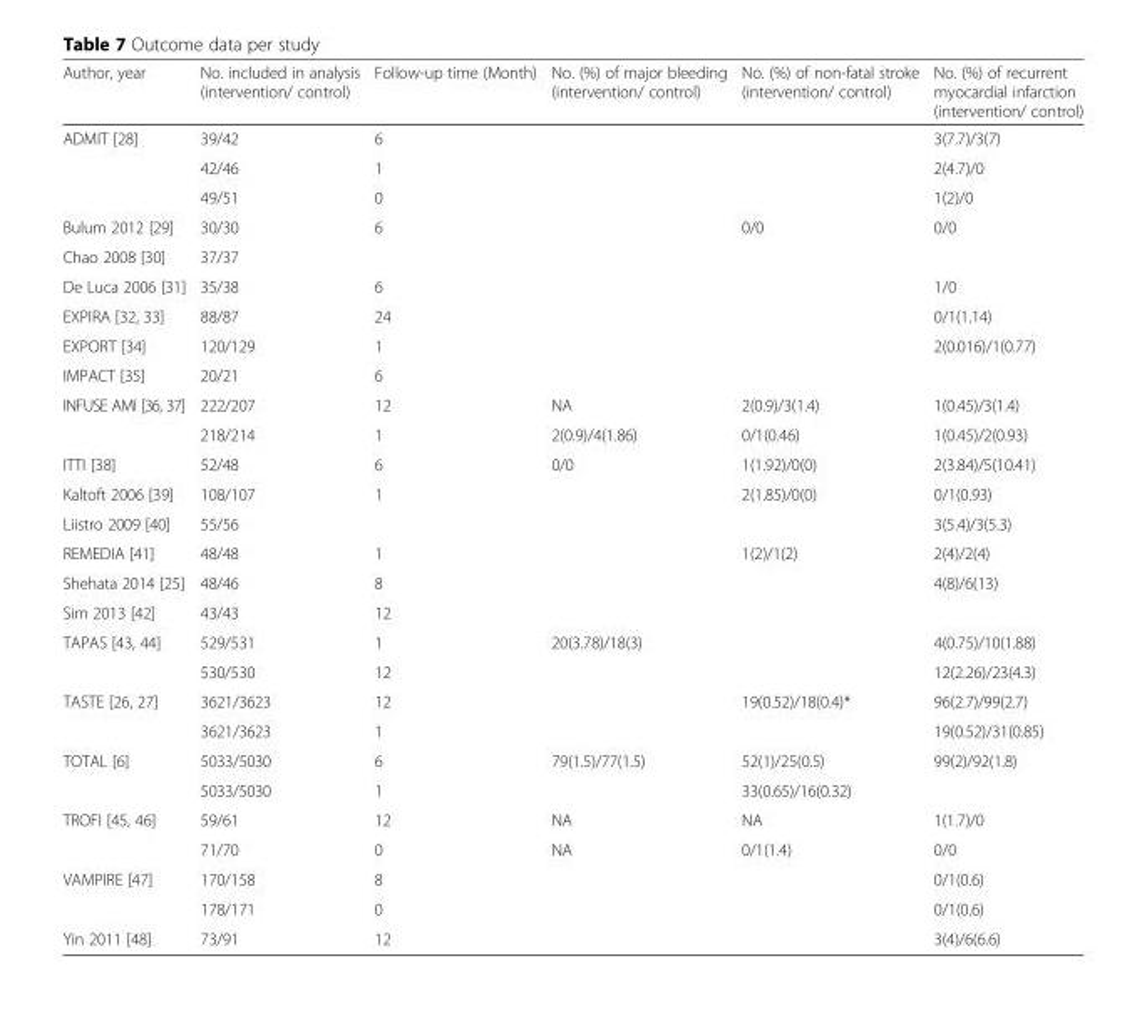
<table><thead><tr><td>Author, year</td><td>No. included in analysis (intervention/ control)</td><td>Follow-up time (Month)</td><td>No. (%) of major bleeding (intervention/ control)</td><td>No. (%) of non-fatal stroke (intervention/ control)</td><td>No. (%) of recurrent myocardial infarction (intervention/ control)</td></tr></thead><tbody><tr><td rowspan="3">ADMIT [28]</td><td>39/42</td><td>6</td><td></td><td></td><td>3(7.7)/3(7)</td></tr><tr><td>42/46</td><td>1</td><td></td><td></td><td>2(4.7)/0</td></tr><tr><td>49/51</td><td>0</td><td></td><td></td><td>1(2)/0</td></tr><tr><td>Bulum 2012 [29]</td><td>30/30</td><td>6</td><td></td><td>0/0</td><td>0/0</td></tr><tr><td>Chao 2008 [30]</td><td>37/37</td><td></td><td></td><td></td><td></td></tr><tr><td>De Luca 2006 [31]</td><td>35/38</td><td>6</td><td></td><td></td><td>1/0</td></tr><tr><td>EXPIRA [32, 33]</td><td>88/87</td><td>24</td><td></td><td></td><td>0/1(1.14)</td></tr><tr><td>EXPORT [34]</td><td>120/129</td><td>1</td><td></td><td></td><td>2(0.016)/1(0.77)</td></tr><tr><td>IMPACT [35]</td><td>20/21</td><td>6</td><td></td><td></td><td></td></tr><tr><td rowspan="2">INFUSE AMI [36, 37]</td><td>222/207</td><td>12</td><td>NA</td><td>2(0.9)/3(1.4)</td><td>1(0.45)/3(1.4)</td></tr><tr><td>218/214</td><td>1</td><td>2(0.9)/4(1.86)</td><td>0/1(0.46)</td><td>1(0.45)/2(0.93)</td></tr><tr><td>ITTI [38]</td><td>52/48</td><td>6</td><td>0/0</td><td>1(1.92)/0(0)</td><td>2(3.84)/5(10.41)</td></tr><tr><td>Kaltoft 2006 [39]</td><td>108/107</td><td>1</td><td></td><td>2(1.85)/0(0)</td><td>0/1(0.93)</td></tr><tr><td>Liistro 2009 [40]</td><td>55/56</td><td></td><td></td><td></td><td>3(5.4)/3(5.3)</td></tr><tr><td>REMEDIA [41]</td><td>48/48</td><td>1</td><td></td><td>1(2)/1(2)</td><td>2(4)/2(4)</td></tr><tr><td>Shehata 2014 [25]</td><td>48/46</td><td>8</td><td></td><td></td><td>4(8)/6(13)</td></tr><tr><td>Sim 2013 [42]</td><td>43/43</td><td>12</td><td></td><td></td><td></td></tr><tr><td rowspan="2">TAPAS [43, 44]</td><td>529/531</td><td>1</td><td>20(3.78)/18(3)</td><td></td><td>4(0.75)/10(1.88)</td></tr><tr><td>530/530</td><td>12</td><td></td><td></td><td>12(2.26)/23(4.3)</td></tr><tr><td rowspan="2">TASTE [26, 27]</td><td>3621/3623</td><td>12</td><td></td><td>19(0.52)/18(0.4)*</td><td>96(2.7)/99(2.7)</td></tr><tr><td>3621/3623</td><td>1</td><td></td><td></td><td>19(0.52)/31(0.85)</td></tr><tr><td rowspan="2">TOTAL [6]</td><td>5033/5030</td><td>6</td><td>79(1.5)/77(1.5)</td><td>52(1)/25(0.5)</td><td>99(2)/92(1.8)</td></tr><tr><td>5033/5030</td><td>1</td><td></td><td>33(0.65)/16(0.32)</td><td></td></tr><tr><td rowspan="2">TROFI [45, 46]</td><td>59/61</td><td>12</td><td>NA</td><td>NA</td><td>1(1.7)/0</td></tr><tr><td>71/70</td><td>0</td><td>NA</td><td>0/1(1.4)</td><td>0/0</td></tr><tr><td rowspan="2">VAMPIRE [47]</td><td>170/158</td><td>8</td><td></td><td></td><td>0/1(0.6)</td></tr><tr><td>178/171</td><td>0</td><td></td><td></td><td>0/1(0.6)</td></tr><tr><td>Yin 2011 [48]</td><td>73/91</td><td>12</td><td></td><td></td><td>3(4)/6(6.6)</td></tr></tbody></table>